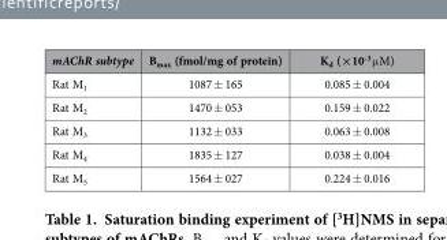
<table><thead><tr><td>mAChR subtype</td><td>B<sub>max</sub> (fmol/mg of protein)</td><td>K<sub>d</sub> (×10<sup>-3</sup> μ M)</td></tr></thead><tbody><tr><td>Rat M<sub>1</sub></td><td>1087 ± 165</td><td>0.085 ± 0.004</td></tr><tr><td>Rat M<sub>2</sub></td><td>1470 ± 053</td><td>0.159 ± 0.022</td></tr><tr><td>Rat M<sub>3</sub></td><td>1132 ± 033</td><td>0.063 ± 0.008</td></tr><tr><td>Rat M<sub>4</sub></td><td>1835 ± 127</td><td>0.038 ± 0.004</td></tr><tr><td>Rat M<sub>5</sub></td><td>1564 ± 027</td><td>0.224 ± 0.016</td></tr></tbody></table>